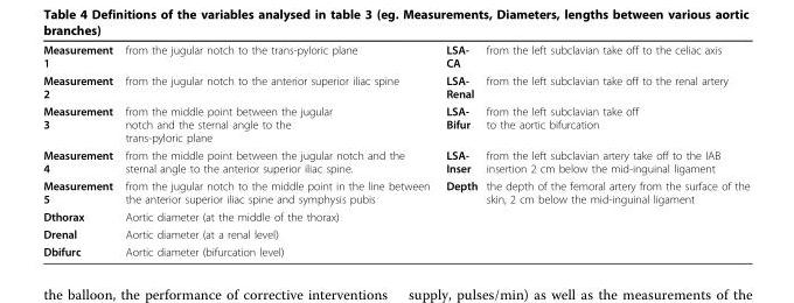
<table><tbody><tr><td>Measurement 1</td><td>from the jugular notch to the trans-pyloric plane</td><td>LSA- CA</td><td>from the left subclavian take off to the celiac axis</td></tr><tr><td>Measurement 2</td><td>from the jugular notch to the anterior superior iliac spine</td><td>LSA- Renal</td><td>from the left subclavian take off to the renal artery</td></tr><tr><td>Measurement 3</td><td>from the middle point between the jugular notch and the sternal angle to the trans-pyloric plane</td><td>LSA- Bifur</td><td>from the left subclavian take off to the aortic bifurcation</td></tr><tr><td>Measurement 4</td><td>from the middle point between the jugular notch and the sternal angle to the anterior superior iliac spine.</td><td>LSA- Inser</td><td>from the left subclavian artery take off to the IAB insertion 2 cm below the mid-inguinal ligament</td></tr><tr><td>Measurement 5</td><td>from the jugular notch to the middle point in the line between the anterior superior iliac spine and symphysis pubis</td><td>Depth</td><td>the depth of the femoral artery from the surface of the skin, 2 cm below the mid-inguinal ligament</td></tr><tr><td>Dthorax</td><td>Aortic diameter (at the middle of the thorax)</td><td></td><td></td></tr><tr><td>Drenal</td><td>Aortic diameter (at a renal level)</td><td></td><td></td></tr><tr><td>Dbifurc</td><td>Aortic diameter (bifurcation level)</td><td></td><td></td></tr></tbody></table>